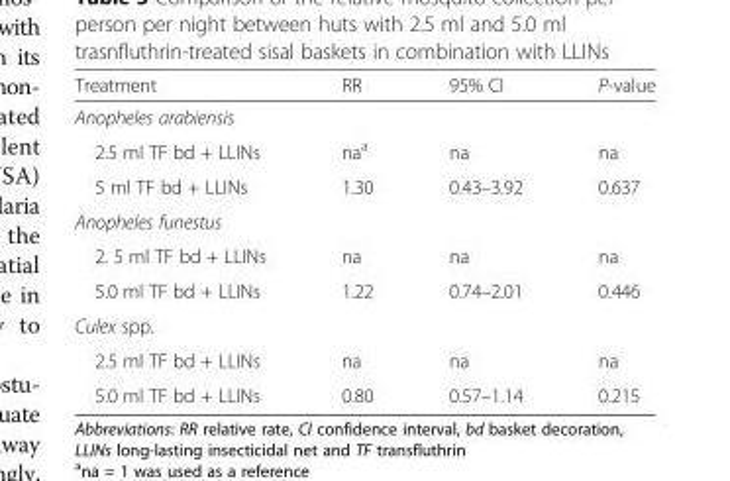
<table><thead><tr><td>Treatment</td><td>RR</td><td>95% CI</td><td>P-value</td></tr></thead><tbody><tr><td colspan="4">Anopheles arabiensis</td></tr><tr><td>2.5 ml TF bd + LLINs</td><td>na<sup>a</sup></td><td>na</td><td>na</td></tr><tr><td>5 ml TF bd + LLINs</td><td>1.30</td><td>0.43–3.92</td><td>0.637</td></tr><tr><td colspan="4">Anopheles funestus</td></tr><tr><td>2. 5 ml TF bd + LLINs</td><td>na</td><td>na</td><td>na</td></tr><tr><td>5.0 ml TF bd + LLINs</td><td>1.22</td><td>0.74–2.01</td><td>0.446</td></tr><tr><td colspan="4">Culex spp.</td></tr><tr><td>2.5 ml TF bd + LLINs</td><td>na</td><td>na</td><td>na</td></tr><tr><td>5.0 ml TF bd + LLINs</td><td>0.80</td><td>0.57–1.14</td><td>0.215</td></tr></tbody></table>